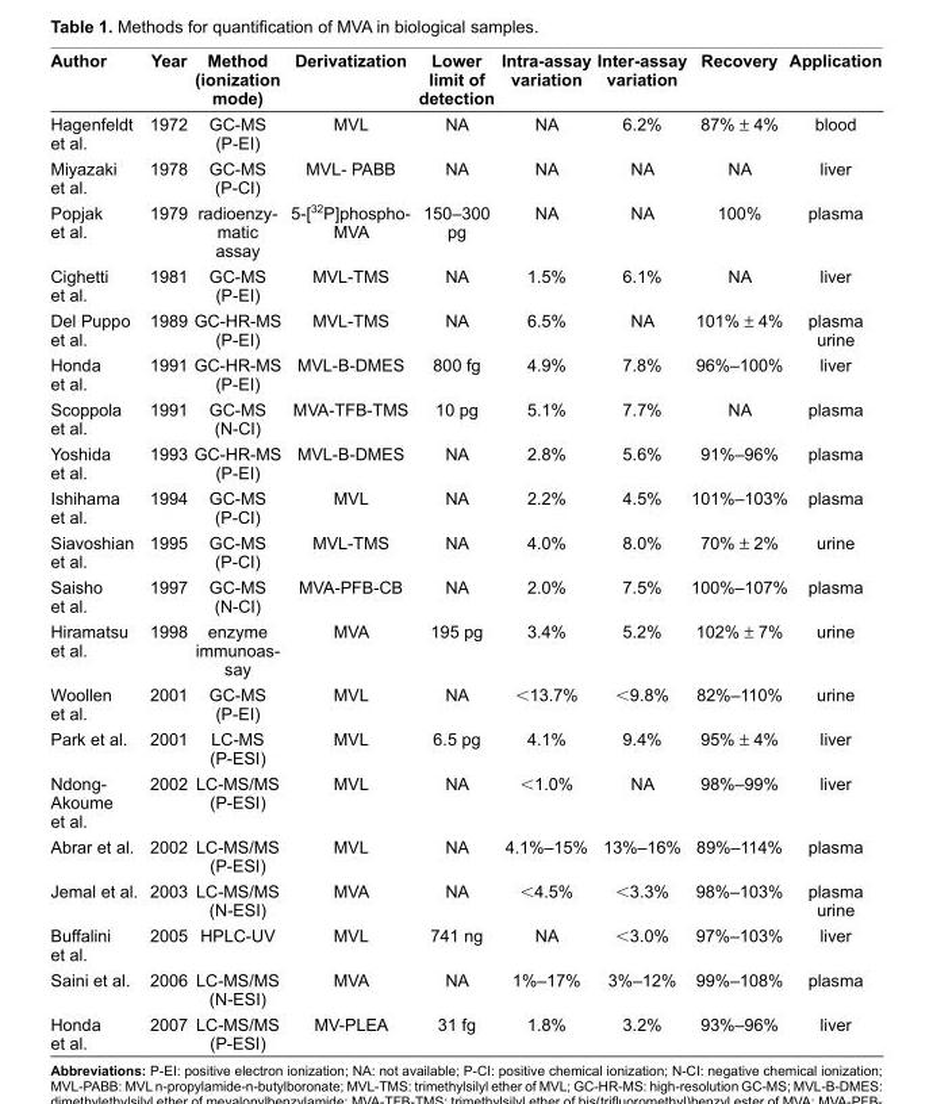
<table><thead><tr><td>Author</td><td>Year</td><td>Method (ionization mode)</td><td>Derivatization</td><td>Lower limit of detection</td><td>Intra-assay variation</td><td>Inter-assay variation</td><td>Recovery</td><td>Application</td></tr></thead><tbody><tr><td>Hagenfeldt et al.</td><td>1972</td><td>GC-MS (P-EI)</td><td>MVL</td><td>NA</td><td>NA</td><td>6.2%</td><td>87% ± 4%</td><td>blood</td></tr><tr><td>Miyazaki et al.</td><td>1978</td><td>GC-MS (P-CI)</td><td>MVL- PABB</td><td>NA</td><td>NA</td><td>NA</td><td>NA</td><td>liver</td></tr><tr><td>Popjak et al.</td><td>1979</td><td>radioenzy- matic assay</td><td>5-[<sup>32</sup>P]phospho- MVA</td><td>150–300 pg</td><td>NA</td><td>NA</td><td>100%</td><td>plasma</td></tr><tr><td>Cighetti et al.</td><td>1981</td><td>GC-MS (P-EI)</td><td>MVL-TMS</td><td>NA</td><td>1.5%</td><td>6.1%</td><td>NA</td><td>liver</td></tr><tr><td>Del Puppo et al.</td><td>1989</td><td>GC-HR-MS (P-EI)</td><td>MVL-TMS</td><td>NA</td><td>6.5%</td><td>NA</td><td>101% ± 4%</td><td>plasma urine</td></tr><tr><td>Honda et al.</td><td>1991</td><td>GC-HR-MS (P-EI)</td><td>MVL-B-DMES</td><td>800 fg</td><td>4.9%</td><td>7.8%</td><td>96%–100%</td><td>liver</td></tr><tr><td>Scoppola et al.</td><td>1991</td><td>GC-MS (N-CI)</td><td>MVA-TFB-TMS</td><td>10 pg</td><td>5.1%</td><td>7.7%</td><td>NA</td><td>plasma</td></tr><tr><td>Yoshida et al.</td><td>1993</td><td>GC-HR-MS (P-EI)</td><td>MVL-B-DMES</td><td>NA</td><td>2.8%</td><td>5.6%</td><td>91%–96%</td><td>plasma</td></tr><tr><td>Ishihama et al.</td><td>1994</td><td>GC-MS (P-CI)</td><td>MVL</td><td>NA</td><td>2.2%</td><td>4.5%</td><td>101%–103%</td><td>plasma</td></tr><tr><td>Siavoshian et al.</td><td>1995</td><td>GC-MS (P-CI)</td><td>MVL-TMS</td><td>NA</td><td>4.0%</td><td>8.0%</td><td>70% ± 2%</td><td>urine</td></tr><tr><td>Saisho et al.</td><td>1997</td><td>GC-MS (N-CI)</td><td>MVA-PFB-CB</td><td>NA</td><td>2.0%</td><td>7.5%</td><td>100%–107%</td><td>plasma</td></tr><tr><td>Hiramatsu et al.</td><td>1998</td><td>enzyme immunoas- say</td><td>MVA</td><td>195 pg</td><td>3.4%</td><td>5.2%</td><td>102% ± 7%</td><td>urine</td></tr><tr><td>Woollen et al.</td><td>2001</td><td>GC-MS (P-EI)</td><td>MVL</td><td>NA</td><td>&lt;13.7%</td><td>&lt;9.8%</td><td>82%–110%</td><td>urine</td></tr><tr><td>Park et al.</td><td>2001</td><td>LC-MS (P-ESI)</td><td>MVL</td><td>6.5 pg</td><td>4.1%</td><td>9.4%</td><td>95% ± 4%</td><td>liver</td></tr><tr><td>Ndong- Akoume et al.</td><td>2002</td><td>LC-MS/MS (P-ESI)</td><td>MVL</td><td>NA</td><td>&lt;1.0%</td><td>NA</td><td>98%–99%</td><td>liver</td></tr><tr><td>Abrar et al.</td><td>2002</td><td>LC-MS/MS (P-ESI)</td><td>MVL</td><td>NA</td><td>4.1%–15%</td><td>13%–16%</td><td>89%–114%</td><td>plasma</td></tr><tr><td>Jemal et al.</td><td>2003</td><td>LC-MS/MS (N-ESI)</td><td>MVA</td><td>NA</td><td>&lt;4.5%</td><td>&lt;3.3%</td><td>98%–103%</td><td>plasma urine</td></tr><tr><td>Buffalini et al.</td><td>2005</td><td>HPLC-UV</td><td>MVL</td><td>741 ng</td><td>NA</td><td>&lt;3.0%</td><td>97%–103%</td><td>liver</td></tr><tr><td>Saini et al.</td><td>2006</td><td>LC-MS/MS (N-ESI)</td><td>MVA</td><td>NA</td><td>1%–17%</td><td>3%–12%</td><td>99%–108%</td><td>plasma</td></tr><tr><td>Honda et al.</td><td>2007</td><td>LC-MS/MS (P-ESI)</td><td>MV-PLEA</td><td>31 fg</td><td>1.8%</td><td>3.2%</td><td>93%–96%</td><td>liver</td></tr></tbody></table>